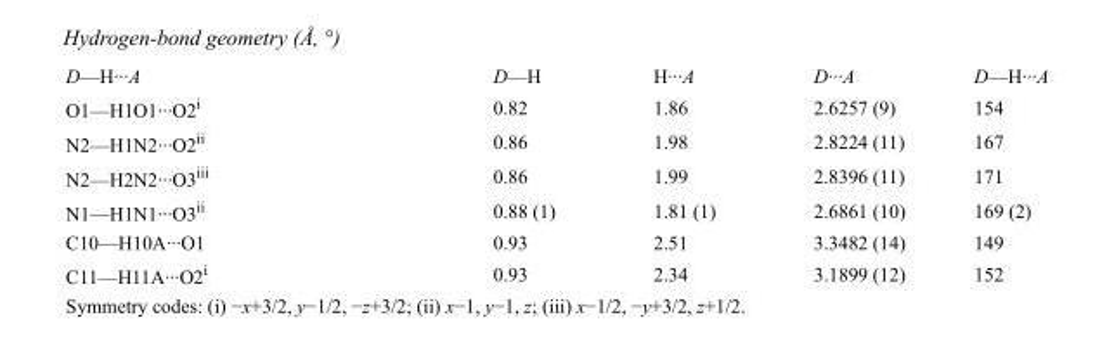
<table><tbody><tr><td>D—H···A</td><td>D—H</td><td>H···A</td><td>D···A</td><td>D—H···A</td></tr><tr><td>O1—H1O1···O2<sup>i</sup></td><td>0.82</td><td>1.86</td><td>2.6257 (9)</td><td>154</td></tr><tr><td>N2—H1N2···O2<sup>ii</sup></td><td>0.86</td><td>1.98</td><td>2.8224 (11)</td><td>167</td></tr><tr><td>N2—H2N2···O3<sup>iii</sup></td><td>0.86</td><td>1.99</td><td>2.8396 (11)</td><td>171</td></tr><tr><td>N1—H1N1···O3<sup>ii</sup></td><td>0.88 (1)</td><td>1.81 (1)</td><td>2.6861 (10)</td><td>169 (2)</td></tr><tr><td>C10—H10A···O1</td><td>0.93</td><td>2.51</td><td>3.3482 (14)</td><td>149</td></tr><tr><td>C11—H11A···O2<sup>i</sup></td><td>0.93</td><td>2.34</td><td>3.1899 (12)</td><td>152</td></tr></tbody></table>